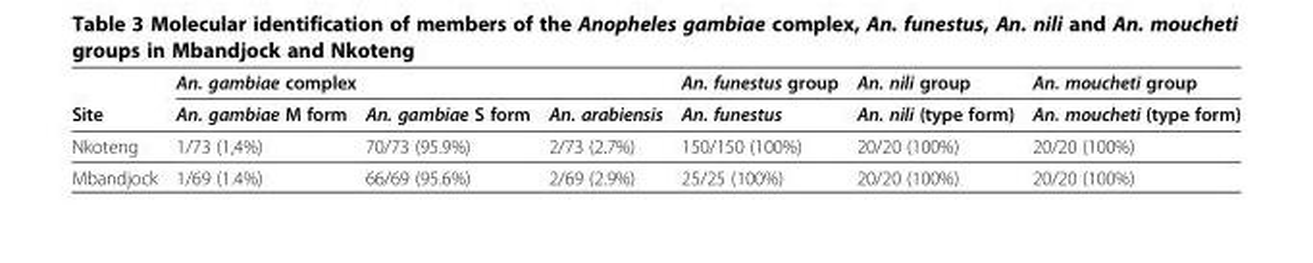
<table><thead><tr><td rowspan="2">Site</td><td colspan="3">An. gambiae complex</td><td rowspan="2">An. funestus group An. funestus</td><td rowspan="2">An. nili group An. nili (type form)</td><td rowspan="2">An. moucheti group An. moucheti (type form)</td></tr><tr><td>An. gambiae M form</td><td>An. gambiae S form</td><td>An. arabiensis</td></tr></thead><tbody><tr><td>Nkoteng</td><td>1/73 (1,4%)</td><td>70/73 (95.9%)</td><td>2/73 (2.7%)</td><td>150/150 (100%)</td><td>20/20 (100%)</td><td>20/20 (100%)</td></tr><tr><td>Mbandjock</td><td>1/69 (1.4%)</td><td>66/69 (95.6%)</td><td>2/69 (2.9%)</td><td>25/25 (100%)</td><td>20/20 (100%)</td><td>20/20 (100%)</td></tr></tbody></table>